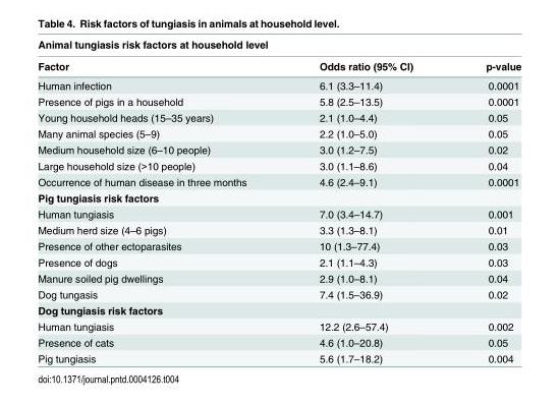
<table><thead><tr><td colspan="3">Animal tungiasis risk factors at household level</td></tr><tr><td>Factor</td><td>Odds ratio (95% CI)</td><td>p-value</td></tr></thead><tbody><tr><td>Human infection</td><td>6.1 (3.3–11.4)</td><td>0.0001</td></tr><tr><td>Presence of pigs in a household</td><td>5.8 (2.5–13.5)</td><td>0.0001</td></tr><tr><td>Young household heads (15–35 years)</td><td>2.1 (1.0–4.4)</td><td>0.05</td></tr><tr><td>Many animal species (5–9)</td><td>2.2 (1.0–5.0)</td><td>0.05</td></tr><tr><td>Medium household size (6–10 people)</td><td>3.0 (1.2–7.5)</td><td>0.02</td></tr><tr><td>Large household size (&gt;10 people)</td><td>3.0 (1.1–8.6)</td><td>0.04</td></tr><tr><td>Occurrence of human disease in three months</td><td>4.6 (2.4–9.1)</td><td>0.0001</td></tr><tr><td colspan="3">Pig tungiasis risk factors</td></tr><tr><td>Human tungiasis</td><td>7.0 (3.4–14.7)</td><td>0.001</td></tr><tr><td>Medium herd size (4–6 pigs)</td><td>3.3 (1.3–8.1)</td><td>0.01</td></tr><tr><td>Presence of other ectoparasites</td><td>10 (1.3–77.4)</td><td>0.03</td></tr><tr><td>Presence of dogs</td><td>2.1 (1.1–4.3)</td><td>0.03</td></tr><tr><td>Manure soiled pig dwellings</td><td>2.9 (1.0–8.1)</td><td>0.04</td></tr><tr><td>Dog tungasis</td><td>7.4 (1.5–36.9)</td><td>0.02</td></tr><tr><td colspan="3">Dog tungiasis risk factors</td></tr><tr><td>Human tungiasis</td><td>12.2 (2.6–57.4)</td><td>0.002</td></tr><tr><td>Presence of cats</td><td>4.6 (1.0–20.8)</td><td>0.05</td></tr><tr><td>Pig tungiasis</td><td>5.6 (1.7–18.2)</td><td>0.004</td></tr></tbody></table>